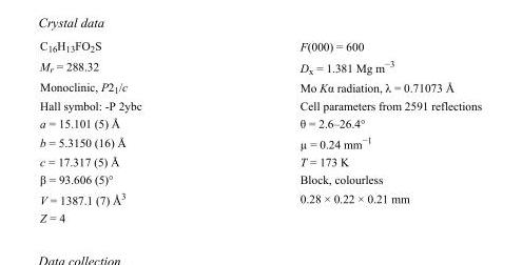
<table><tbody><tr><td>C<sub>16</sub>H<sub>13</sub>FO<sub>2</sub>S</td><td>F(000) = 600</td></tr><tr><td>M<sub>r</sub> = 288.32</td><td>D<sub>x</sub> = 1.381 Mg m<sup>−3</sup></td></tr><tr><td>Monoclinic, P2<sub>1</sub>/c</td><td>Mo Kα radiation, λ = 0.71073 Å</td></tr><tr><td>Hall symbol: -P 2ybc</td><td>Cell parameters from 2591 reflections</td></tr><tr><td>a = 15.101 (5) Å</td><td>θ = 2.6–26.4°</td></tr><tr><td>b = 5.3150 (16) Å</td><td>µ = 0.24 mm<sup>−1</sup></td></tr><tr><td>c = 17.317 (5) Å</td><td>T = 173 K</td></tr><tr><td>β = 93.606 (5)°</td><td>Block, colourless</td></tr><tr><td>V = 1387.1 (7) Å<sup>3</sup></td><td>0.28 × 0.22 × 0.21 mm</td></tr><tr><td>Z = 4</td><td></td></tr></tbody></table>